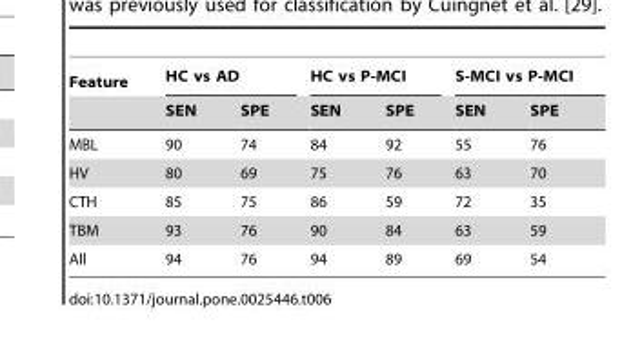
<table><thead><tr><td rowspan="2">Feature</td><td colspan="2">HC vs AD</td><td colspan="2">HC vs P-MCI</td><td colspan="2">S-MCI vs P-MCI</td></tr><tr><td>SEN</td><td>SPE</td><td>SEN</td><td>SPE</td><td>SEN</td><td>SPE</td></tr></thead><tbody><tr><td>MBL</td><td>90</td><td>74</td><td>84</td><td>92</td><td>55</td><td>76</td></tr><tr><td>HV</td><td>80</td><td>69</td><td>75</td><td>76</td><td>63</td><td>70</td></tr><tr><td>CTH</td><td>85</td><td>75</td><td>86</td><td>59</td><td>72</td><td>35</td></tr><tr><td>TBM</td><td>93</td><td>76</td><td>90</td><td>84</td><td>63</td><td>59</td></tr><tr><td>All</td><td>94</td><td>76</td><td>94</td><td>89</td><td>69</td><td>54</td></tr></tbody></table>